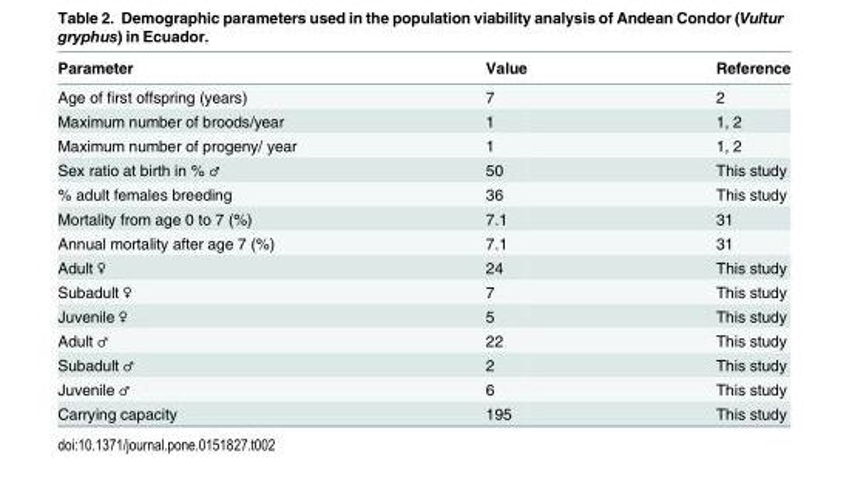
<table><thead><tr><td>Parameter</td><td>Value</td><td>Reference</td></tr></thead><tbody><tr><td>Age of first offspring (years)</td><td>7</td><td>2</td></tr><tr><td>Maximum number of broods/year</td><td>1</td><td>1, 2</td></tr><tr><td>Maximum number of progeny/ year</td><td>1</td><td>1, 2</td></tr><tr><td>Sex ratio at birth in % ♂</td><td>50</td><td>This study</td></tr><tr><td>% adult females breeding</td><td>36</td><td>This study</td></tr><tr><td>Mortality from age 0 to 7 (%)</td><td>7.1</td><td>31</td></tr><tr><td>Annual mortality after age 7 (%)</td><td>7.1</td><td>31</td></tr><tr><td>Adult ♀</td><td>24</td><td>This study</td></tr><tr><td>Subadult ♀</td><td>7</td><td>This study</td></tr><tr><td>Juvenile ♀</td><td>5</td><td>This study</td></tr><tr><td>Adult ♂</td><td>22</td><td>This study</td></tr><tr><td>Subadult ♂</td><td>2</td><td>This study</td></tr><tr><td>Juvenile ♂</td><td>6</td><td>This study</td></tr><tr><td>Carrying capacity</td><td>195</td><td>This study</td></tr></tbody></table>